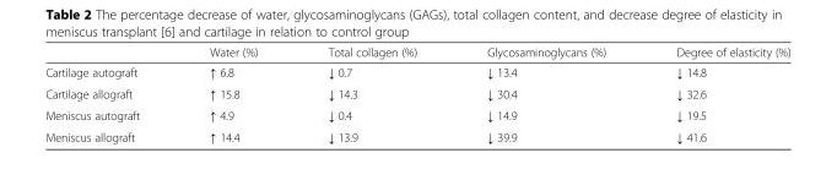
<table><thead><tr><td></td><td>Water (%)</td><td>Total collagen (%)</td><td>Glycosaminoglycans (%)</td><td>Degree of elasticity (%)</td></tr></thead><tbody><tr><td>Cartilage autograft</td><td>↑ 6.8</td><td>↓ 0.7</td><td>↓ 13.4</td><td>↓ 14.8</td></tr><tr><td>Cartilage allograft</td><td>↑ 15.8</td><td>↓ 14.3</td><td>↓ 30.4</td><td>↓ 32.6</td></tr><tr><td>Meniscus autograft</td><td>↑ 4.9</td><td>↓ 0.4</td><td>↓ 14.9</td><td>↓ 19.5</td></tr><tr><td>Meniscus allograft</td><td>↑ 14.4</td><td>↓ 13.9</td><td>↓ 39.9</td><td>↓ 41.6</td></tr></tbody></table>